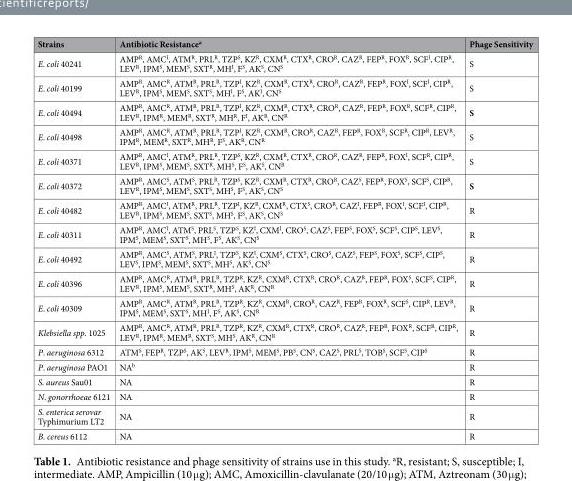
<table><thead><tr><td>Strains</td><td>Antibiotic Resistance<sup>a</sup></td><td>Phage Sensitivity</td></tr></thead><tbody><tr><td>E. coli 40241</td><td>AMP<sup>R</sup>, AMC<sup>I</sup>, ATM<sup>R</sup>, PRL<sup>R</sup>, TZP<sup>S</sup>, KZ<sup>R</sup>, CXM<sup>R</sup>, CTX<sup>R</sup>, CRO<sup>R</sup>, CAZ<sup>R</sup>, FEP<sup>R</sup>, FOX<sup>R</sup>, SCF<sup>I</sup>, CIP<sup>R</sup>, LEV<sup>R</sup>, IPM<sup>S</sup>, MEM<sup>S</sup>, SXT<sup>R</sup>, MH<sup>I</sup>, F<sup>S</sup>, AK<sup>S</sup>, CN<sup>S</sup></td><td>S</td></tr><tr><td>E. coli 40199</td><td>AMP<sup>R</sup>, AMC<sup>R</sup>, ATM<sup>R</sup>, PRL<sup>R</sup>, TZP<sup>I</sup>, KZ<sup>R</sup>, CXM<sup>R</sup>, CTX<sup>R</sup>, CRO<sup>R</sup>, CAZ<sup>R</sup>, FEP<sup>R</sup>, FOX<sup>I</sup>, SCF<sup>I</sup>, CIP<sup>R</sup>, LEV<sup>R</sup>, IPM<sup>S</sup>, MEM<sup>S</sup>, SXT<sup>S</sup>, MH<sup>I</sup>, F<sup>S</sup>, AK<sup>I</sup>, CN<sup>S</sup></td><td>S</td></tr><tr><td>E. coli 40494</td><td>AMP<sup>R</sup>, AMC<sup>R</sup>, ATM<sup>R</sup>, PRL<sup>R</sup>, TZP<sup>I</sup>, KZ<sup>R</sup>, CXM<sup>R</sup>, CTX<sup>R</sup>, CRO<sup>R</sup>, CAZ<sup>R</sup>, FEP<sup>R</sup>, FOX<sup>R</sup>, SCF<sup>R</sup>, CIP<sup>R</sup>, LEV<sup>R</sup>, IPM<sup>R</sup>, MEM<sup>R</sup>, SXT<sup>R</sup>, MH<sup>R</sup>, F<sup>I</sup>, AK<sup>R</sup>, CN<sup>R</sup></td><td>S</td></tr><tr><td>E. coli 40498</td><td>AMP<sup>R</sup>, AMC<sup>R</sup>, ATM<sup>R</sup>, PRL<sup>R</sup>, TZP<sup>I</sup>, KZ<sup>R</sup>, CXM<sup>R</sup>, CRO<sup>R</sup>, CAZ<sup>R</sup>, FEP<sup>R</sup>, FOX<sup>R</sup>, SCF<sup>R</sup>, CIP<sup>R</sup>, LEV<sup>R</sup>, IPM<sup>R</sup>, MEM<sup>R</sup>, SXT<sup>R</sup>, MH<sup>R</sup>, F<sup>S</sup>, AK<sup>R</sup>, CN<sup>R</sup></td><td>S</td></tr><tr><td>E. coli 40371</td><td>AMP<sup>R</sup>, AMC<sup>I</sup>, ATM<sup>R</sup>, PRL<sup>R</sup>, TZP<sup>S</sup>, KZ<sup>R</sup>, CXM<sup>R</sup>, CTX<sup>R</sup>, CRO<sup>R</sup>, CAZ<sup>R</sup>, FEP<sup>R</sup>, FOX<sup>I</sup>, SCF<sup>R</sup>, CIP<sup>R</sup>, LEV<sup>R</sup>, IPM<sup>S</sup>, MEM<sup>S</sup>, SXT<sup>R</sup>, MH<sup>S</sup>, F<sup>S</sup>, AK<sup>S</sup>, CN<sup>R</sup></td><td>S</td></tr><tr><td>E. coli 40372</td><td>AMP<sup>R</sup>, AMC<sup>S</sup>, ATM<sup>S</sup>, PRL<sup>R</sup>, TZP<sup>S</sup>, KZ<sup>R</sup>, CXM<sup>R</sup>, CTX<sup>R</sup>, CRO<sup>R</sup>, CAZ<sup>S</sup>, FEP<sup>R</sup>, FOX<sup>S</sup>, SCF<sup>S</sup>, CIP<sup>R</sup>, LEV<sup>R</sup>, IPM<sup>S</sup>, MEM<sup>S</sup>, SXT<sup>S</sup>, MH<sup>S</sup>, F<sup>S</sup>, AK<sup>S</sup>, CN<sup>S</sup></td><td>S</td></tr><tr><td>E. coli 40482</td><td>AMP<sup>R</sup>, AMC<sup>I</sup>, ATM<sup>R</sup>, PRL<sup>R</sup>, TZP<sup>I</sup>, KZ<sup>R</sup>, CXM<sup>R</sup>, CTX<sup>S</sup>, CRO<sup>R</sup>, CAZ<sup>I</sup>, FEP<sup>R</sup>, FOX<sup>I</sup>, SCF<sup>I</sup>, CIP<sup>R</sup>, LEV<sup>R</sup>, IPM<sup>S</sup>, MEM<sup>S</sup>, SXT<sup>S</sup>, MH<sup>S</sup>, F<sup>S</sup>, AK<sup>S</sup>, CN<sup>S</sup></td><td>R</td></tr><tr><td>E. coli 40311</td><td>AMP<sup>R</sup>, AMC<sup>I</sup>, ATM<sup>S</sup>, PRL<sup>S</sup>, TZP<sup>S</sup>, KZ<sup>I</sup>, CXM<sup>I</sup>, CRO<sup>S</sup>, CAZ<sup>S</sup>, FEP<sup>S</sup>, FOX<sup>S</sup>, SCF<sup>S</sup>, CIP<sup>S</sup>, LEV<sup>S</sup>, IPM<sup>S</sup>, MEM<sup>S</sup>, SXT<sup>S</sup>, MH<sup>S</sup>, F<sup>S</sup>, AK<sup>S</sup>, CN<sup>S</sup></td><td>R</td></tr><tr><td>E. coli 40492</td><td>AMP<sup>R</sup>, AMC<sup>S</sup>, ATM<sup>S</sup>, PRL<sup>I</sup>, TZP<sup>S</sup>, KZ<sup>I</sup>, CXM<sup>S</sup>, CTX<sup>S</sup>, CRO<sup>S</sup>, CAZ<sup>S</sup>, FEP<sup>S</sup>, FOX<sup>S</sup>, SCF<sup>S</sup>, CIP<sup>S</sup>, LEV<sup>S</sup>, IPM<sup>S</sup>, MEM<sup>S</sup>, SXT<sup>S</sup>, MH<sup>S</sup>, AK<sup>S</sup>, CN<sup>S</sup></td><td>R</td></tr><tr><td>E. coli 40396</td><td>AMP<sup>R</sup>, AMC<sup>R</sup>, ATM<sup>R</sup>, PRL<sup>R</sup>, TZP<sup>R</sup>, KZ<sup>R</sup>, CXM<sup>R</sup>, CTX<sup>R</sup>, CRO<sup>R</sup>, CAZ<sup>R</sup>, FEP<sup>R</sup>, FOX<sup>S</sup>, SCF<sup>S</sup>, CIP<sup>R</sup>, LEV<sup>R</sup>, IPM<sup>S</sup>, MEM<sup>S</sup>, SXT<sup>R</sup>, MH<sup>S</sup>, AK<sup>R</sup>, CN<sup>R</sup></td><td>R</td></tr><tr><td>E. coli 40309</td><td>AMP<sup>R</sup>, AMC<sup>R</sup>, ATM<sup>R</sup>, PRL<sup>R</sup>, TZP<sup>R</sup>, KZ<sup>R</sup>, CXM<sup>R</sup>, CRO<sup>R</sup>, CAZ<sup>R</sup>, FEP<sup>R</sup>, FOX<sup>R</sup>, SCF<sup>S</sup>, CIP<sup>R</sup>, LEV<sup>R</sup>, IPM<sup>S</sup>, MEM<sup>S</sup>, SXT<sup>S</sup>, MH<sup>I</sup>, F<sup>S</sup>, AK<sup>S</sup>, CN<sup>R</sup></td><td>R</td></tr><tr><td>Klebsiella spp. 1025</td><td>AMP<sup>R</sup>, AMC<sup>R</sup>, ATM<sup>R</sup>, PRL<sup>R</sup>, TZP<sup>R</sup>, KZ<sup>R</sup>, CXM<sup>R</sup>, CTX<sup>R</sup>, CRO<sup>R</sup>, CAZ<sup>R</sup>, FEP<sup>R</sup>, FOX<sup>R</sup>, SCF<sup>R</sup>, CIP<sup>R</sup>, LEV<sup>R</sup>, IPM<sup>R</sup>, MEM<sup>R</sup>, SXT<sup>S</sup>, MH<sup>S</sup>, AK<sup>R</sup>, CN<sup>R</sup></td><td>R</td></tr><tr><td>P. aeruginosa 6312</td><td>ATM<sup>S</sup>, FEP<sup>R</sup>, TZP<sup>S</sup>, AK<sup>S</sup>, LEV<sup>R</sup>, IPM<sup>S</sup>, MEM<sup>S</sup>, PB<sup>S</sup>, CN<sup>S</sup>, CAZ<sup>S</sup>, PRL<sup>S</sup>, TOB<sup>S</sup>, SCF<sup>S</sup>, CIP<sup>S</sup></td><td>R</td></tr><tr><td>P. aeruginosa PAO1</td><td>NA<sup>b</sup></td><td>R</td></tr><tr><td>S. aureus Sau01</td><td>NA</td><td>R</td></tr><tr><td>N. gonorrhoeae 6121</td><td>NA</td><td>R</td></tr><tr><td>S. enterica serovar Typhimurium LT2</td><td>NA</td><td>R</td></tr><tr><td>B. cereus 6112</td><td>NA</td><td>R</td></tr></tbody></table>